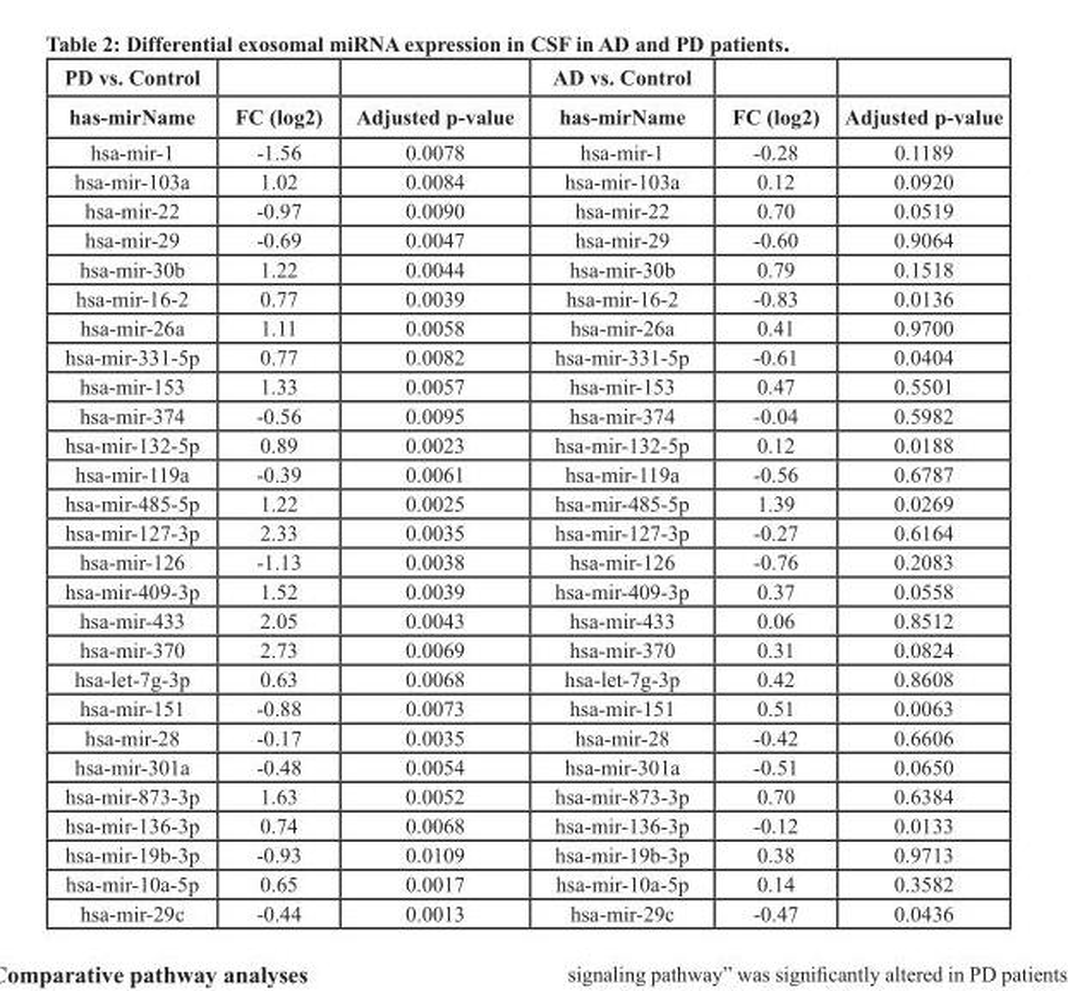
<table><thead><tr><td rowspan="2">PD vs. Control has-mirName</td><td rowspan="2">FC (log2)</td><td rowspan="2">Adjusted p-value</td><td rowspan="2">AD vs. Control has-mirName</td><td rowspan="2">FC (log2)</td><td rowspan="2">Adjusted p-value</td></tr><tr></tr></thead><tbody><tr><td>hsa-mir-1</td><td>-1.56</td><td>0.0078</td><td>hsa-mir-1</td><td>-0.28</td><td>0.1189</td></tr><tr><td>hsa-mir-103a</td><td>1.02</td><td>0.0084</td><td>hsa-mir-103a</td><td>0.12</td><td>0.0920</td></tr><tr><td>hsa-mir-22</td><td>-0.97</td><td>0.0090</td><td>hsa-mir-22</td><td>0.70</td><td>0.0519</td></tr><tr><td>hsa-mir-29</td><td>-0.69</td><td>0.0047</td><td>hsa-mir-29</td><td>-0.60</td><td>0.9064</td></tr><tr><td>hsa-mir-30b</td><td>1.22</td><td>0.0044</td><td>hsa-mir-30b</td><td>0.79</td><td>0.1518</td></tr><tr><td>hsa-mir-16-2</td><td>0.77</td><td>0.0039</td><td>hsa-mir-16-2</td><td>-0.83</td><td>0.0136</td></tr><tr><td>hsa-mir-26a</td><td>1.11</td><td>0.0058</td><td>hsa-mir-26a</td><td>0.41</td><td>0.9700</td></tr><tr><td>hsa-mir-331-5p</td><td>0.77</td><td>0.0082</td><td>hsa-mir-331-5p</td><td>-0.61</td><td>0.0404</td></tr><tr><td>hsa-mir-153</td><td>1.33</td><td>0.0057</td><td>hsa-mir-153</td><td>0.47</td><td>0.5501</td></tr><tr><td>hsa-mir-374</td><td>-0.56</td><td>0.0095</td><td>hsa-mir-374</td><td>-0.04</td><td>0.5982</td></tr><tr><td>hsa-mir-132-5p</td><td>0.89</td><td>0.0023</td><td>hsa-mir-132-5p</td><td>0.12</td><td>0.0188</td></tr><tr><td>hsa-mir-119a</td><td>-0.39</td><td>0.0061</td><td>hsa-mir-119a</td><td>-0.56</td><td>0.6787</td></tr><tr><td>hsa-mir-485-5p</td><td>1.22</td><td>0.0025</td><td>hsa-mir-485-5p</td><td>1.39</td><td>0.0269</td></tr><tr><td>hsa-mir-127-3p</td><td>2.33</td><td>0.0035</td><td>hsa-mir-127-3p</td><td>-0.27</td><td>0.6164</td></tr><tr><td>hsa-mir-126</td><td>-1.13</td><td>0.0038</td><td>hsa-mir-126</td><td>-0.76</td><td>0.2083</td></tr><tr><td>hsa-mir-409-3p</td><td>1.52</td><td>0.0039</td><td>hsa-mir-409-3p</td><td>0.37</td><td>0.0558</td></tr><tr><td>hsa-mir-433</td><td>2.05</td><td>0.0043</td><td>hsa-mir-433</td><td>0.06</td><td>0.8512</td></tr><tr><td>hsa-mir-370</td><td>2.73</td><td>0.0069</td><td>hsa-mir-370</td><td>0.31</td><td>0.0824</td></tr><tr><td>hsa-let-7g-3p</td><td>0.63</td><td>0.0068</td><td>hsa-let-7g-3p</td><td>0.42</td><td>0.8608</td></tr><tr><td>hsa-mir-151</td><td>-0.88</td><td>0.0073</td><td>hsa-mir-151</td><td>0.51</td><td>0.0063</td></tr><tr><td>hsa-mir-28</td><td>-0.17</td><td>0.0035</td><td>hsa-mir-28</td><td>-0.42</td><td>0.6606</td></tr><tr><td>hsa-mir-301a</td><td>-0.48</td><td>0.0054</td><td>hsa-mir-301a</td><td>-0.51</td><td>0.0650</td></tr><tr><td>hsa-mir-873-3p</td><td>1.63</td><td>0.0052</td><td>hsa-mir-873-3p</td><td>0.70</td><td>0.6384</td></tr><tr><td>hsa-mir-136-3p</td><td>0.74</td><td>0.0068</td><td>hsa-mir-136-3p</td><td>-0.12</td><td>0.0133</td></tr><tr><td>hsa-mir-19b-3p</td><td>-0.93</td><td>0.0109</td><td>hsa-mir-19b-3p</td><td>0.38</td><td>0.9713</td></tr><tr><td>hsa-mir-10a-5p</td><td>0.65</td><td>0.0017</td><td>hsa-mir-10a-5p</td><td>0.14</td><td>0.3582</td></tr><tr><td>hsa-mir-29c</td><td>-0.44</td><td>0.0013</td><td>hsa-mir-29c</td><td>-0.47</td><td>0.0436</td></tr></tbody></table>